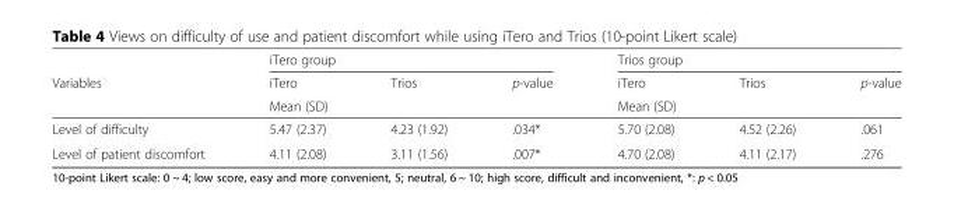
<table><thead><tr><td rowspan="3">Variables</td><td colspan="3">iTero group</td><td colspan="3">Trios group</td></tr><tr><td>iTero</td><td>Trios</td><td rowspan="2">p-value</td><td>iTero</td><td>Trios</td><td rowspan="2">p-value</td></tr><tr><td colspan="2">Mean (SD)</td><td colspan="2">Mean (SD)</td></tr></thead><tbody><tr><td>Level of difficulty</td><td>5.47 (2.37)</td><td>4.23 (1.92)</td><td>.034*</td><td>5.70 (2.08)</td><td>4.52 (2.26)</td><td>.061</td></tr><tr><td>Level of patient discomfort</td><td>4.11 (2.08)</td><td>3.11 (1.56)</td><td>.007*</td><td>4.70 (2.08)</td><td>4.11 (2.17)</td><td>.276</td></tr></tbody></table>